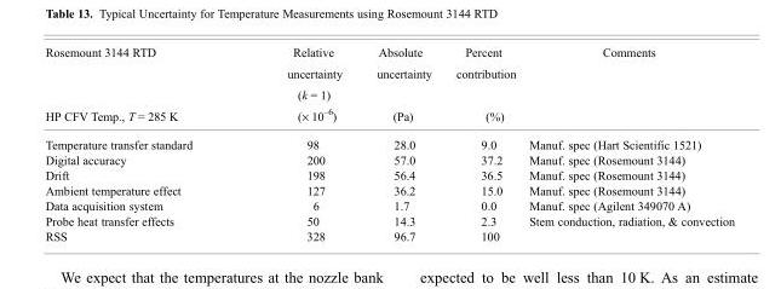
<table><thead><tr><td rowspan="2">Rosemount 3144 RTD HP CFV Temp., T = 285 K</td><td rowspan="2">Relative uncertainty (k = 1) (× 10<sup>–6</sup>)</td><td rowspan="2">Absolute uncertainty (Pa)</td><td rowspan="2">Percent contribution (%)</td><td rowspan="2">Comments</td></tr><tr></tr></thead><tbody><tr><td>Temperature transfer standard</td><td>98</td><td>28.0</td><td>9.0</td><td>Manuf. spec (Hart Scientific 1521)</td></tr><tr><td>Digital accuracy</td><td>200</td><td>57.0</td><td>37.2</td><td>Manuf. spec (Rosemount 3144)</td></tr><tr><td>Drift</td><td>198</td><td>56.4</td><td>36.5</td><td>Manuf. spec (Rosemount 3144)</td></tr><tr><td>Ambient temperature effect</td><td>127</td><td>36.2</td><td>15.0</td><td>Manuf. spec (Rosemount 3144)</td></tr><tr><td>Data acquisition system</td><td>6</td><td>1.7</td><td>0.0</td><td>Manuf. spec (Agilent 349070 A)</td></tr><tr><td>Probe heat transfer effects</td><td>50</td><td>14.3</td><td>2.3</td><td>Stem conduction, radiation, &amp; convection</td></tr><tr><td>RSS</td><td>328</td><td>96.7</td><td>100</td><td></td></tr></tbody></table>